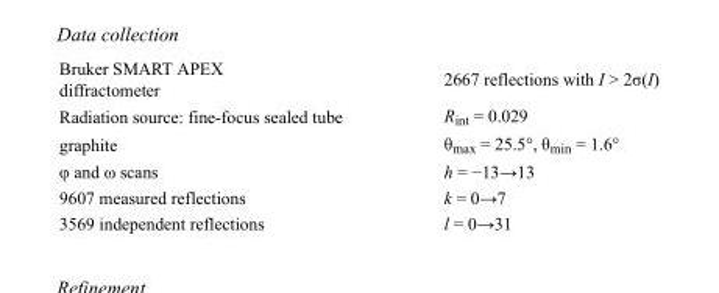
<table><tbody><tr><td>Bruker SMART APEX diffractometer</td><td>2667 reflections with I &gt; 2σ(I)</td></tr><tr><td>Radiation source: fine-focus sealed tube</td><td>R<sub>int</sub> = 0.029</td></tr><tr><td>graphite</td><td>θ<sub>max</sub> = 25.5°, θ<sub>min</sub> = 1.6°</td></tr><tr><td>φ and ω scans</td><td>h = −13→13</td></tr><tr><td>9607 measured reflections</td><td>k = 0→7</td></tr><tr><td>3569 independent reflections</td><td>l = 0→31</td></tr></tbody></table>